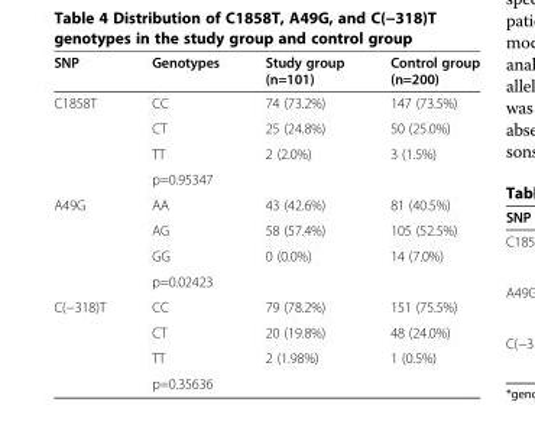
<table><thead><tr><td>SNP</td><td>Genotypes</td><td>Study group (n=101)</td><td>Control group (n=200)</td></tr></thead><tbody><tr><td rowspan="4">C1858T</td><td>CC</td><td>74 (73.2%)</td><td>147 (73.5%)</td></tr><tr><td>CT</td><td>25 (24.8%)</td><td>50 (25.0%)</td></tr><tr><td>TT</td><td>2 (2.0%)</td><td>3 (1.5%)</td></tr><tr><td colspan="3">p=0.95347</td></tr><tr><td rowspan="4">A49G</td><td>AA</td><td>43 (42.6%)</td><td>81 (40.5%)</td></tr><tr><td>AG</td><td>58 (57.4%)</td><td>105 (52.5%)</td></tr><tr><td>GG</td><td>0 (0.0%)</td><td>14 (7.0%)</td></tr><tr><td colspan="3">p=0.02423</td></tr><tr><td rowspan="4">C(−318)T</td><td>CC</td><td>79 (78.2%)</td><td>151 (75.5%)</td></tr><tr><td>CT</td><td>20 (19.8%)</td><td>48 (24.0%)</td></tr><tr><td>TT</td><td>2 (1.98%)</td><td>1 (0.5%)</td></tr><tr><td colspan="3">p=0.35636</td></tr></tbody></table>